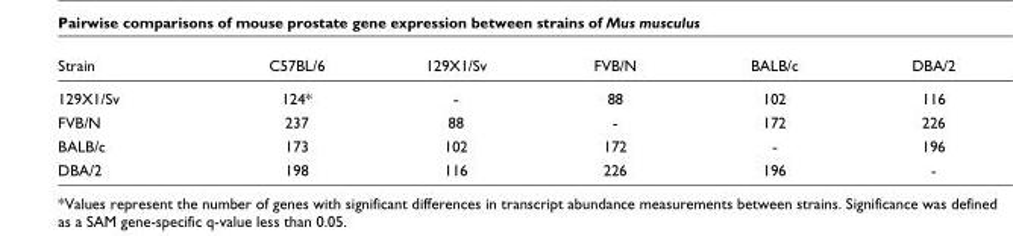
<table><thead><tr><td>Strain</td><td>C57BL/6</td><td>129X1/Sv</td><td>FVB/N</td><td>BALB/c</td><td>DBA/2</td></tr></thead><tbody><tr><td>129X1/Sv</td><td>124*</td><td>-</td><td>88</td><td>102</td><td>116</td></tr><tr><td>FVB/N</td><td>237</td><td>88</td><td>-</td><td>172</td><td>226</td></tr><tr><td>BALB/c</td><td>173</td><td>102</td><td>172</td><td>-</td><td>196</td></tr><tr><td>DBA/2</td><td>198</td><td>116</td><td>226</td><td>196</td><td>-</td></tr></tbody></table>